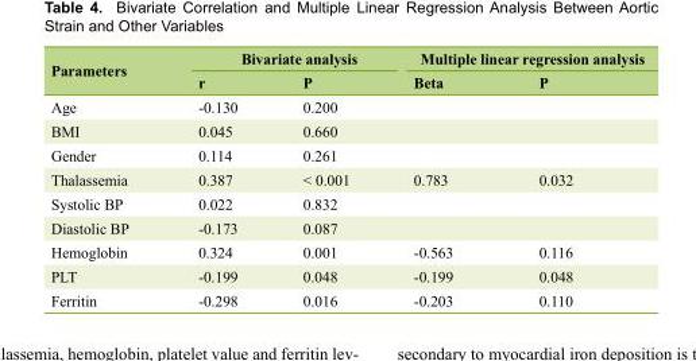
<table><thead><tr><td rowspan="2">Parameters</td><td colspan="2">Bivariate analysis</td><td colspan="2">Multiple linear regression analysis</td></tr><tr><td>r</td><td>P</td><td>Beta</td><td>P</td></tr></thead><tbody><tr><td>Age</td><td>-0.130</td><td>0.200</td><td></td><td></td></tr><tr><td>BMI</td><td>0.045</td><td>0.660</td><td></td><td></td></tr><tr><td>Gender</td><td>0.114</td><td>0.261</td><td></td><td></td></tr><tr><td>Thalassemia</td><td>0.387</td><td>&lt; 0.001</td><td>0.783</td><td>0.032</td></tr><tr><td>Systolic BP</td><td>0.022</td><td>0.832</td><td></td><td></td></tr><tr><td>Diastolic BP</td><td>-0.173</td><td>0.087</td><td></td><td></td></tr><tr><td>Hemoglobin</td><td>0.324</td><td>0.001</td><td>-0.563</td><td>0.116</td></tr><tr><td>PLT</td><td>-0.199</td><td>0.048</td><td>-0.199</td><td>0.048</td></tr><tr><td>Ferritin</td><td>-0.298</td><td>0.016</td><td>-0.203</td><td>0.110</td></tr></tbody></table>